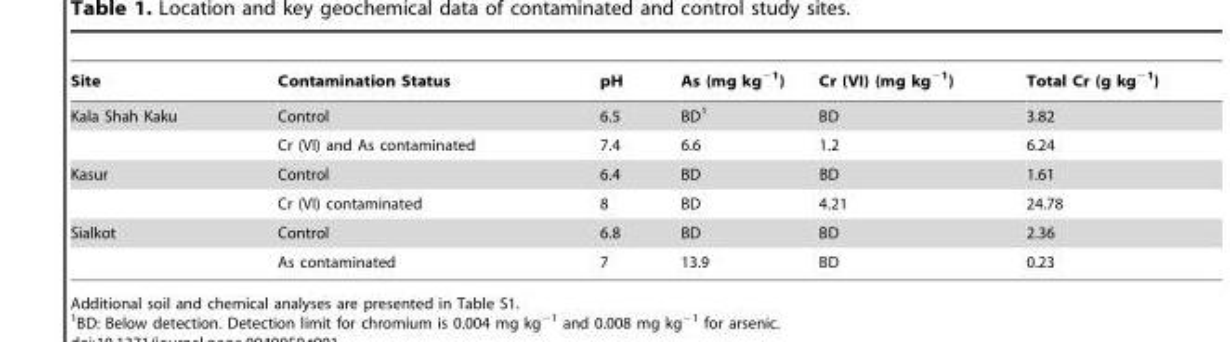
<table><thead><tr><td>Site</td><td>Contamination Status</td><td>pH</td><td>As (mg kg<sup>−1</sup>)</td><td>Cr (VI) (mg kg<sup>−1</sup>)</td><td>Total Cr (g kg<sup>−1</sup>)</td></tr></thead><tbody><tr><td rowspan="2">Kala Shah Kaku</td><td>Control</td><td>6.5</td><td>BD<sup>1</sup></td><td>BD</td><td>3.82</td></tr><tr><td>Cr (VI) and As contaminated</td><td>7.4</td><td>6.6</td><td>1.2</td><td>6.24</td></tr><tr><td rowspan="2">Kasur</td><td>Control</td><td>6.4</td><td>BD</td><td>BD</td><td>1.61</td></tr><tr><td>Cr (VI) contaminated</td><td>8</td><td>BD</td><td>4.21</td><td>24.78</td></tr><tr><td rowspan="2">Sialkot</td><td>Control</td><td>6.8</td><td>BD</td><td>BD</td><td>2.36</td></tr><tr><td>As contaminated</td><td>7</td><td>13.9</td><td>BD</td><td>0.23</td></tr></tbody></table>